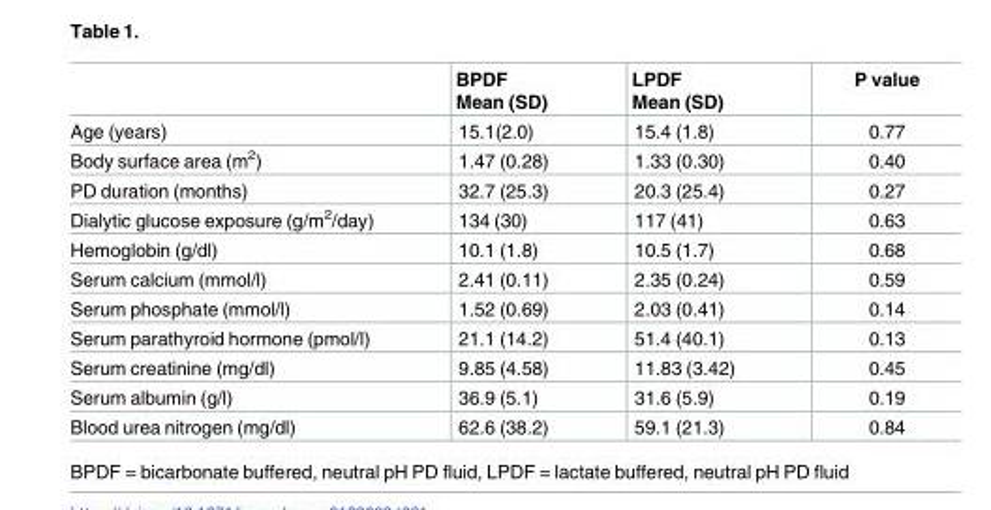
<table><thead><tr><td></td><td>BPDF Mean (SD)</td><td>LPDF Mean (SD)</td><td>P value</td></tr></thead><tbody><tr><td>Age (years)</td><td>15.1(2.0)</td><td>15.4 (1.8)</td><td>0.77</td></tr><tr><td>Body surface area (m<sup>2</sup>)</td><td>1.47 (0.28)</td><td>1.33 (0.30)</td><td>0.40</td></tr><tr><td>PD duration (months)</td><td>32.7 (25.3)</td><td>20.3 (25.4)</td><td>0.27</td></tr><tr><td>Dialytic glucose exposure (g/m<sup>2</sup>/day)</td><td>134 (30)</td><td>117 (41)</td><td>0.63</td></tr><tr><td>Hemoglobin (g/dl)</td><td>10.1 (1.8)</td><td>10.5 (1.7)</td><td>0.68</td></tr><tr><td>Serum calcium (mmol/l)</td><td>2.41 (0.11)</td><td>2.35 (0.24)</td><td>0.59</td></tr><tr><td>Serum phosphate (mmol/l)</td><td>1.52 (0.69)</td><td>2.03 (0.41)</td><td>0.14</td></tr><tr><td>Serum parathyroid hormone (pmol/l)</td><td>21.1 (14.2)</td><td>51.4 (40.1)</td><td>0.13</td></tr><tr><td>Serum creatinine (mg/dl)</td><td>9.85 (4.58)</td><td>11.83 (3.42)</td><td>0.45</td></tr><tr><td>Serum albumin (g/l)</td><td>36.9 (5.1)</td><td>31.6 (5.9)</td><td>0.19</td></tr><tr><td>Blood urea nitrogen (mg/dl)</td><td>62.6 (38.2)</td><td>59.1 (21.3)</td><td>0.84</td></tr></tbody></table>